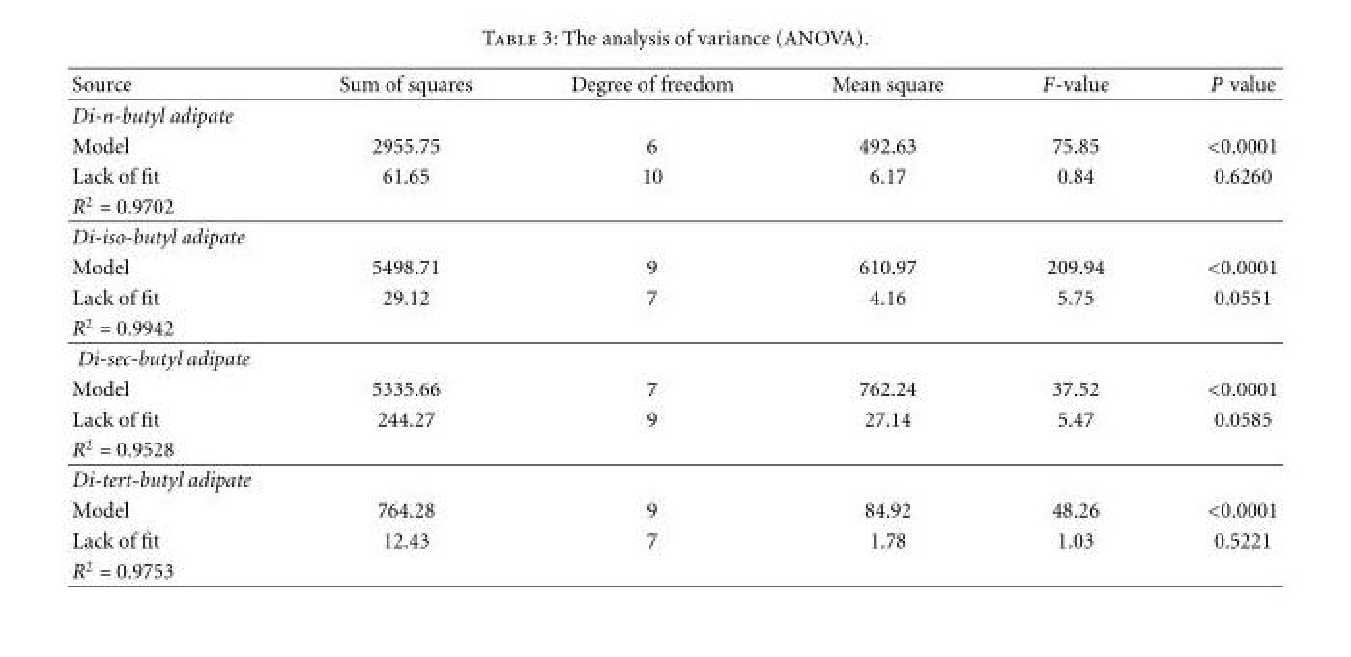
<table><thead><tr><td>Source</td><td>Sum of squares</td><td>Degree of freedom</td><td>Mean square</td><td>F-value</td><td>P value</td></tr></thead><tbody><tr><td colspan="6">Di-n-butyl adipate</td></tr><tr><td>Model</td><td>2955.75</td><td>6</td><td>492.63</td><td>75.85</td><td>&lt;0.0001</td></tr><tr><td>Lack of fit</td><td>61.65</td><td>10</td><td>6.17</td><td>0.84</td><td>0.6260</td></tr><tr><td colspan="6">R<sup>2</sup> = 0.9702</td></tr><tr><td colspan="6">Di-iso-butyl adipate</td></tr><tr><td>Model</td><td>5498.71</td><td>9</td><td>610.97</td><td>209.94</td><td>&lt;0.0001</td></tr><tr><td>Lack of fit</td><td>29.12</td><td>7</td><td>4.16</td><td>5.75</td><td>0.0551</td></tr><tr><td colspan="6">R<sup>2</sup> = 0.9942</td></tr><tr><td colspan="6">Di-sec-butyl adipate</td></tr><tr><td>Model</td><td>5335.66</td><td>7</td><td>762.24</td><td>37.52</td><td>&lt;0.0001</td></tr><tr><td>Lack of fit</td><td>244.27</td><td>9</td><td>27.14</td><td>5.47</td><td>0.0585</td></tr><tr><td colspan="6">R<sup>2</sup> = 0.9528</td></tr><tr><td colspan="6">Di-tert-butyl adipate</td></tr><tr><td>Model</td><td>764.28</td><td>9</td><td>84.92</td><td>48.26</td><td>&lt;0.0001</td></tr><tr><td>Lack of fit</td><td>12.43</td><td>7</td><td>1.78</td><td>1.03</td><td>0.5221</td></tr><tr><td>R<sup>2</sup> = 0.9753</td><td></td><td></td><td></td><td></td><td></td></tr></tbody></table>